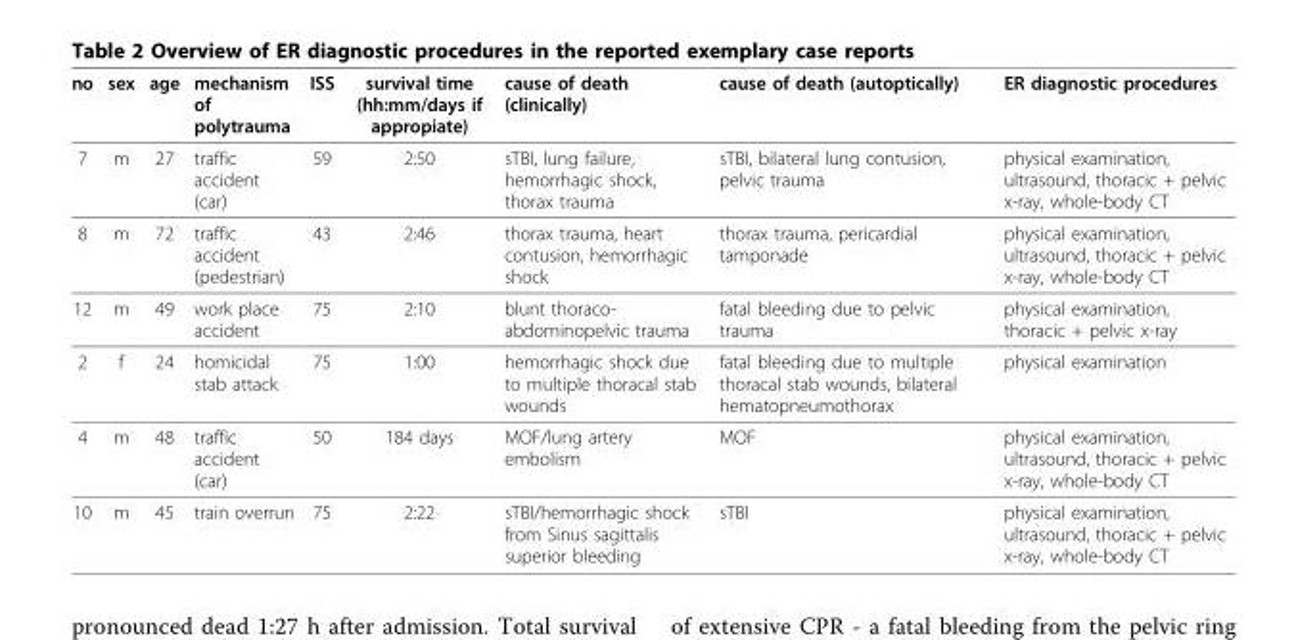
<table><thead><tr><td>no</td><td>sex</td><td>age</td><td>mechanism of polytrauma</td><td>ISS</td><td>survival time (hh:mm/days if appropiate)</td><td>cause of death (clinically)</td><td>cause of death (autoptically)</td><td>ER diagnostic procedures</td></tr></thead><tbody><tr><td>7</td><td>m</td><td>27</td><td>traffic accident (car)</td><td>59</td><td>2:50</td><td>sTBI, lung failure, hemorrhagic shock, thorax trauma</td><td>sTBI, bilateral lung contusion, pelvic trauma</td><td>physical examination, ultrasound, thoracic + pelvic x-ray, whole-body CT</td></tr><tr><td>8</td><td>m</td><td>72</td><td>traffic accident (pedestrian)</td><td>43</td><td>2:46</td><td>thorax trauma, heart contusion, hemorrhagic shock</td><td>thorax trauma, pericardial tamponade</td><td>physical examination, ultrasound, thoracic + pelvic x-ray, whole-body CT</td></tr><tr><td>12</td><td>m</td><td>49</td><td>work place accident</td><td>75</td><td>2:10</td><td>blunt thoraco- abdominopelvic trauma</td><td>fatal bleeding due to pelvic trauma</td><td>physical examination, thoracic + pelvic x-ray</td></tr><tr><td>2</td><td>f</td><td>24</td><td>homicidal stab attack</td><td>75</td><td>1:00</td><td>hemorrhagic shock due to multiple thoracal stab wounds</td><td>fatal bleeding due to multiple thoracal stab wounds, bilateral hematopneumothorax</td><td>physical examination</td></tr><tr><td>4</td><td>m</td><td>48</td><td>traffic accident (car)</td><td>50</td><td>184 days</td><td>MOF/lung artery embolism</td><td>MOF</td><td>physical examination, ultrasound, thoracic + pelvic x-ray, whole-body CT</td></tr><tr><td>10</td><td>m</td><td>45</td><td>train overrun</td><td>75</td><td>2:22</td><td>sTBI/hemorrhagic shock from Sinus sagittalis superior bleeding</td><td>sTBI</td><td>physical examination, ultrasound, thoracic + pelvic x-ray, whole-body CT</td></tr></tbody></table>